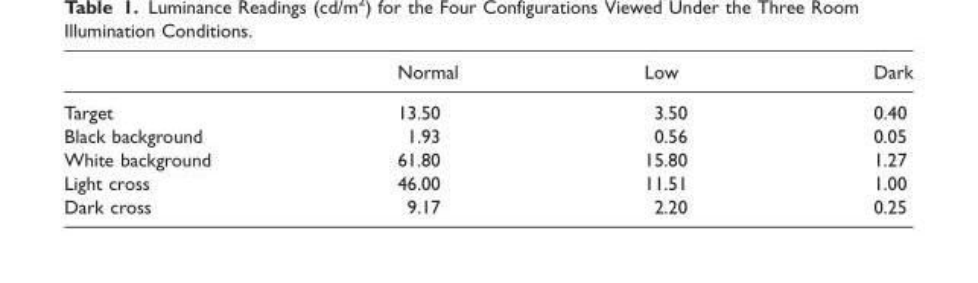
<table><thead><tr><td></td><td>Normal</td><td>Low</td><td>Dark</td></tr></thead><tbody><tr><td>Target</td><td>13.50</td><td>3.50</td><td>0.40</td></tr><tr><td>Black background</td><td>1.93</td><td>0.56</td><td>0.05</td></tr><tr><td>White background</td><td>61.80</td><td>15.80</td><td>1.27</td></tr><tr><td>Light cross</td><td>46.00</td><td>11.51</td><td>1.00</td></tr><tr><td>Dark cross</td><td>9.17</td><td>2.20</td><td>0.25</td></tr></tbody></table>